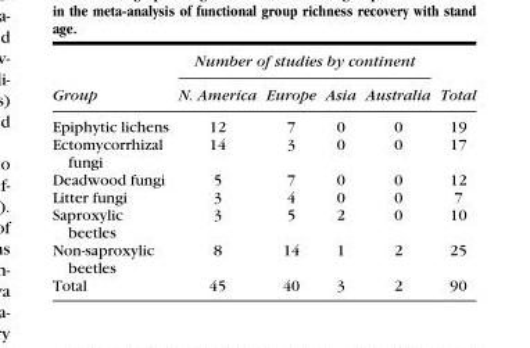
<table><thead><tr><td rowspan="2">Group</td><td colspan="4">Number of studies by continent</td><td rowspan="2">Total</td></tr><tr><td>N. America</td><td>Europe</td><td>Asia</td><td>Australia</td></tr></thead><tbody><tr><td>Epiphytic lichens</td><td>12</td><td>7</td><td>0</td><td>0</td><td>19</td></tr><tr><td>Ectomycorrhizal fungi</td><td>14</td><td>3</td><td>0</td><td>0</td><td>17</td></tr><tr><td>Deadwood fungi</td><td>5</td><td>7</td><td>0</td><td>0</td><td>12</td></tr><tr><td>Litter fungi</td><td>3</td><td>4</td><td>0</td><td>0</td><td>7</td></tr><tr><td>Saproxylic beetles</td><td>3</td><td>5</td><td>2</td><td>0</td><td>10</td></tr><tr><td>Non-saproxylic beetles</td><td>8</td><td>14</td><td>1</td><td>2</td><td>25</td></tr><tr><td>Total</td><td>45</td><td>40</td><td>3</td><td>2</td><td>90</td></tr></tbody></table>